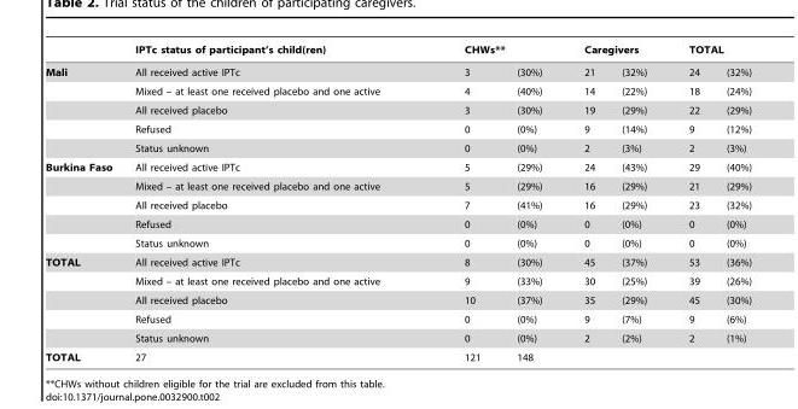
<table><thead><tr><td rowspan="2">Mali</td><td rowspan="2">IPTc status of participant’s child(ren) All received active IPTc</td><td colspan="2">CHWs**</td><td colspan="2">Caregivers</td><td colspan="2">TOTAL</td></tr><tr><td>3</td><td>(30%)</td><td>21</td><td>(32%)</td><td>24</td><td>(32%)</td></tr></thead><tbody><tr><td></td><td>Mixed – at least one received placebo and one active</td><td>4</td><td>(40%)</td><td>14</td><td>(22%)</td><td>18</td><td>(24%)</td></tr><tr><td></td><td>All received placebo</td><td>3</td><td>(30%)</td><td>19</td><td>(29%)</td><td>22</td><td>(29%)</td></tr><tr><td></td><td>Refused</td><td>0</td><td>(0%)</td><td>9</td><td>(14%)</td><td>9</td><td>(12%)</td></tr><tr><td></td><td>Status unknown</td><td>0</td><td>(0%)</td><td>2</td><td>(3%)</td><td>2</td><td>(3%)</td></tr><tr><td rowspan="5">Burkina Faso</td><td>All received active IPTc</td><td>5</td><td>(29%)</td><td>24</td><td>(43%)</td><td>29</td><td>(40%)</td></tr><tr><td>Mixed – at least one received placebo and one active</td><td>5</td><td>(29%)</td><td>16</td><td>(29%)</td><td>21</td><td>(29%)</td></tr><tr><td>All received placebo</td><td>7</td><td>(41%)</td><td>16</td><td>(29%)</td><td>23</td><td>(32%)</td></tr><tr><td>Refused</td><td>0</td><td>(0%)</td><td>0</td><td>(0%)</td><td>0</td><td>(0%)</td></tr><tr><td>Status unknown</td><td>0</td><td>(0%)</td><td>0</td><td>(0%)</td><td>0</td><td>(0%)</td></tr><tr><td rowspan="5">TOTAL</td><td>All received active IPTc</td><td>8</td><td>(30%)</td><td>45</td><td>(37%)</td><td>53</td><td>(36%)</td></tr><tr><td>Mixed – at least one received placebo and one active</td><td>9</td><td>(33%)</td><td>30</td><td>(25%)</td><td>39</td><td>(26%)</td></tr><tr><td>All received placebo</td><td>10</td><td>(37%)</td><td>35</td><td>(29%)</td><td>45</td><td>(30%)</td></tr><tr><td>Refused</td><td>0</td><td>(0%)</td><td>9</td><td>(7%)</td><td>9</td><td>(6%)</td></tr><tr><td>Status unknown</td><td>0</td><td>(0%)</td><td>2</td><td>(2%)</td><td>2</td><td>(1%)</td></tr><tr><td>TOTAL</td><td>27</td><td>121</td><td>148</td><td></td><td></td><td></td><td></td></tr></tbody></table>